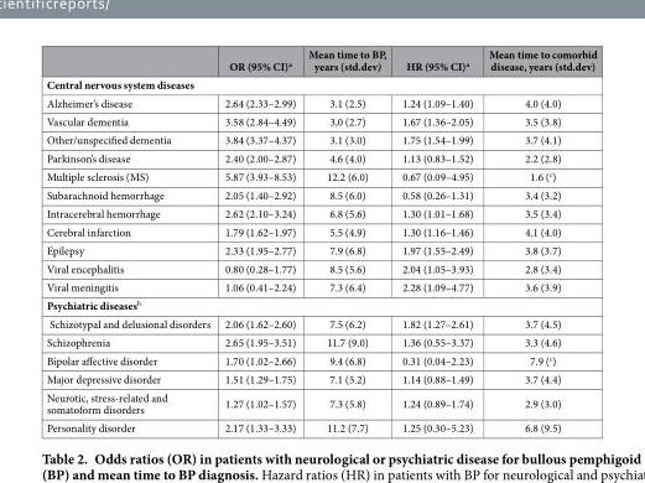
<table><thead><tr><td></td><td>OR (95% CI)<sup>a</sup></td><td>Mean time to BP, years (std.dev)</td><td>HR (95% CI)<sup>a</sup></td><td>Mean time to comorbid disease, years (std.dev)</td></tr></thead><tbody><tr><td colspan="5">Central nervous system diseases</td></tr><tr><td>Alzheimer’s disease</td><td>2.64 (2.33–2.99)</td><td>3.1 (2.5)</td><td>1.24 (1.09–1.40)</td><td>4.0 (4.0)</td></tr><tr><td>Vascular dementia</td><td>3.58 (2.84–4.49)</td><td>3,0 (2.7)</td><td>1.67 (1.36–2.05)</td><td>3.5 (3.8)</td></tr><tr><td>Other/unspecified dementia</td><td>3.84 (3.37–4.37)</td><td>3.1 (3.0)</td><td>1.75 (1.54–1.99)</td><td>3.7 (4.1)</td></tr><tr><td>Parkinson’s disease</td><td>2.40 (2.00–2.87)</td><td>4.6 (4.0)</td><td>1.13 (0.83–1.52)</td><td>2.2 (2.8)</td></tr><tr><td>Multiple sclerosis (MS)</td><td>5.87 (3.93–8.53)</td><td>12.2 (6.0)</td><td>0.67 (0.09–4.95)</td><td>1.6 (<sup>c</sup>)</td></tr><tr><td>Subarachnoid hemorrhage</td><td>2.05 (1.40–2.92)</td><td>8.5 (6.0)</td><td>0.58 (0.26–1.31)</td><td>3.4 (3.2)</td></tr><tr><td>Intracerebral hemorrhage</td><td>2.62 (2.10–3.24)</td><td>6.8 (5.6)</td><td>1.30 (1.01–1.68)</td><td>3.5 (3.4)</td></tr><tr><td>Cerebral infarction</td><td>1.79 (1.62–1.97)</td><td>5.5 (4.9)</td><td>1.30 (1.16–1.46)</td><td>4.1 (4.0)</td></tr><tr><td>Epilepsy</td><td>2.33 (1.95–2.77)</td><td>7.9 (6.8)</td><td>1.97 (1.55–2.49)</td><td>3.8 (3.7)</td></tr><tr><td>Viral encephalitis</td><td>0.80 (0.28–1.77)</td><td>8.5 (5.6)</td><td>2.04 (1.05–3.93)</td><td>2.8 (3.4)</td></tr><tr><td>Viral meningitis</td><td>1.06 (0.41–2.24)</td><td>7.3 (6.4)</td><td>2.28 (1.09–4.77)</td><td>3.6 (3.9)</td></tr><tr><td colspan="5">Psychiatric diseases<sup>b</sup></td></tr><tr><td>Schizotypal and delusional disorders</td><td>2.06 (1.62–2.60)</td><td>7.5 (6.2)</td><td>1.82 (1.27–2.61)</td><td>3.7 (4.5)</td></tr><tr><td>Schizophrenia</td><td>2.65 (1.95–3.51)</td><td>11.7 (9.0)</td><td>1.36 (0.55–3.37)</td><td>3.3 (4.6)</td></tr><tr><td>Bipolar affective disorder</td><td>1.70 (1.02–2.66)</td><td>9.4 (6.8)</td><td>0.31 (0.04–2.23)</td><td>7.9 (<sup>c</sup>)</td></tr><tr><td>Major depressive disorder</td><td>1.51 (1.29–1.75)</td><td>7.1 (5.2)</td><td>1.14 (0.88–1.49)</td><td>3.7 (4.4)</td></tr><tr><td>Neurotic, stress-related and somatoform disorders</td><td>1.27 (1.02–1.57)</td><td>7.3 (5.8)</td><td>1.24 (0.89–1.74)</td><td>2.9 (3.0)</td></tr><tr><td>Personality disorder</td><td>2.17 (1.33–3.33)</td><td>11.2 (7.7)</td><td>1.25 (0.30–5.23)</td><td>6.8 (9.5)</td></tr></tbody></table>